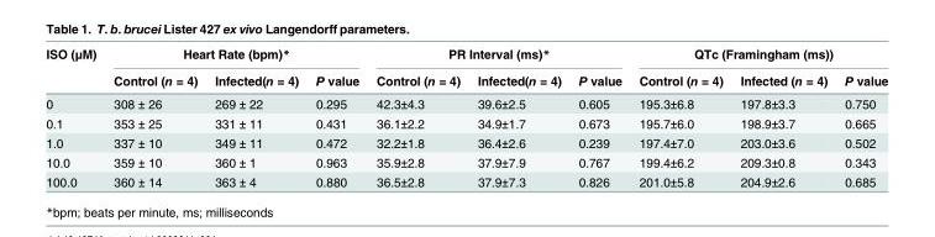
<table><thead><tr><td rowspan="2">ISO (μM)</td><td colspan="3">Heart Rate (bpm)*</td><td colspan="3">PR Interval (ms)*</td><td colspan="3">QTc (Framingham (ms))</td></tr><tr><td>Control (n = 4)</td><td>Infected(n = 4)</td><td>P value</td><td>Control (n = 4)</td><td>Infected(n = 4)</td><td>P value</td><td>Control (n = 4)</td><td>Infected (n = 4)</td><td>P value</td></tr></thead><tbody><tr><td>0</td><td>308 ± 26</td><td>269 ± 22</td><td>0.295</td><td>42.3±4.3</td><td>39.6±2.5</td><td>0.605</td><td>195.3±6.8</td><td>197.8±3.3</td><td>0.750</td></tr><tr><td>0.1</td><td>353 ± 25</td><td>331 ± 11</td><td>0.431</td><td>36.1±2.2</td><td>34.9±1.7</td><td>0.673</td><td>195.7±6.0</td><td>198.9±3.7</td><td>0.665</td></tr><tr><td>1.0</td><td>337 ± 10</td><td>349 ± 11</td><td>0.472</td><td>32.2±1.8</td><td>36.4±2.6</td><td>0.239</td><td>197.4±7.0</td><td>203.0±3.6</td><td>0.502</td></tr><tr><td>10.0</td><td>359 ± 10</td><td>360 ± 1</td><td>0.963</td><td>35.9±2.8</td><td>37.9±7.9</td><td>0.767</td><td>199.4±6.2</td><td>209.3±0.8</td><td>0.343</td></tr><tr><td>100.0</td><td>360 ± 14</td><td>363 ± 4</td><td>0.880</td><td>36.5±2.8</td><td>37.9±7.3</td><td>0.826</td><td>201.0±5.8</td><td>204.9±2.6</td><td>0.685</td></tr></tbody></table>